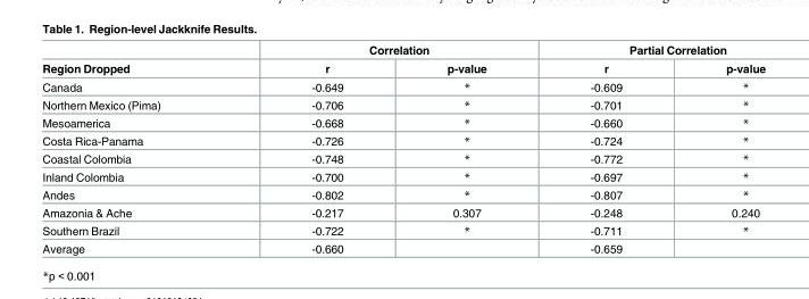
<table><thead><tr><td rowspan="2">Region Dropped</td><td colspan="2">Correlation</td><td colspan="2">Partial Correlation</td></tr><tr><td>r</td><td>p-value</td><td>r</td><td>p-value</td></tr></thead><tbody><tr><td>Canada</td><td>-0.649</td><td>*</td><td>-0.609</td><td>*</td></tr><tr><td>Northern Mexico (Pima)</td><td>-0.706</td><td>*</td><td>-0.701</td><td>*</td></tr><tr><td>Mesoamerica</td><td>-0.668</td><td>*</td><td>-0.660</td><td>*</td></tr><tr><td>Costa Rica-Panama</td><td>-0.726</td><td>*</td><td>-0.724</td><td>*</td></tr><tr><td>Coastal Colombia</td><td>-0.748</td><td>*</td><td>-0.772</td><td>*</td></tr><tr><td>Inland Colombia</td><td>-0.700</td><td>*</td><td>-0.697</td><td>*</td></tr><tr><td>Andes</td><td>-0.802</td><td>*</td><td>-0.807</td><td>*</td></tr><tr><td>Amazonia &amp; Ache</td><td>-0.217</td><td>0.307</td><td>-0.248</td><td>0.240</td></tr><tr><td>Southern Brazil</td><td>-0.722</td><td>*</td><td>-0.711</td><td>*</td></tr><tr><td>Average</td><td>-0.660</td><td></td><td>-0.659</td><td></td></tr></tbody></table>